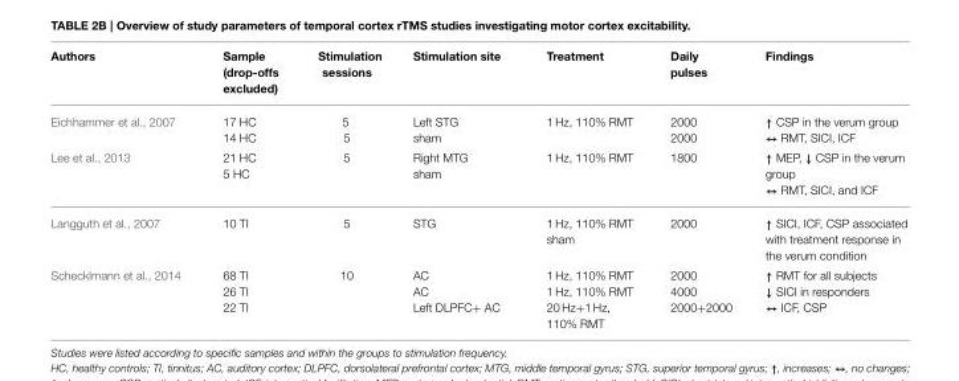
<table><thead><tr><td>Authors</td><td>Sample (drop-offs excluded)</td><td>Stimulation sessions</td><td>Stimulation site</td><td>Treatment</td><td>Daily pulses</td><td>Findings</td></tr></thead><tbody><tr><td>Eichhammer et al., 2007</td><td>17 HC 14 HC</td><td>5 5</td><td>Left STG sham</td><td>1 Hz, 110% RMT</td><td>2000 2000</td><td>↑ CSP in the verum group ↔ RMT, SICI, ICF</td></tr><tr><td>Lee et al., 2013</td><td>21 HC 5 HC</td><td>5</td><td>Right MTG sham</td><td>1 Hz, 110% RMT</td><td>1800</td><td>↑ MEP, ↓ CSP in the verum group ↔ RMT, SICI, and ICF</td></tr><tr><td>Langguth et al., 2007</td><td>10 TI</td><td>5</td><td>STG</td><td>1 Hz, 110% RMT sham</td><td>2000</td><td>↑ SICI, ICF, CSP associated with treatment response in the verum condition</td></tr><tr><td>Schecklmann et al., 2014</td><td>68 TI 26 TI 22 TI</td><td>10</td><td>AC AC Left DLPFC+ AC</td><td>1 Hz, 110% RMT 1 Hz, 110% RMT 20 Hz+1 Hz, 110% RMT</td><td>2000 4000 2000+2000</td><td>↑ RMT for all subjects ↓ SICI in responders ↔ ICF, CSP</td></tr></tbody></table>